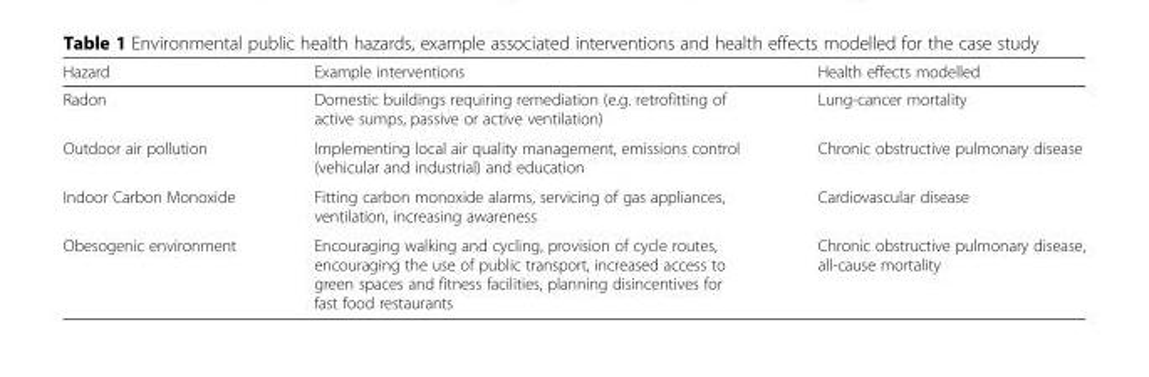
<table><thead><tr><td>Hazard</td><td>Example interventions</td><td>Health effects modelled</td></tr></thead><tbody><tr><td>Radon</td><td>Domestic buildings requiring remediation (e.g. retrofitting of active sumps, passive or active ventilation)</td><td>Lung-cancer mortality</td></tr><tr><td>Outdoor air pollution</td><td>Implementing local air quality management, emissions control (vehicular and industrial) and education</td><td>Chronic obstructive pulmonary disease</td></tr><tr><td>Indoor Carbon Monoxide</td><td>Fitting carbon monoxide alarms, servicing of gas appliances, ventilation, increasing awareness</td><td>Cardiovascular disease</td></tr><tr><td>Obesogenic environment</td><td>Encouraging walking and cycling, provision of cycle routes, encouraging the use of public transport, increased access to green spaces and fitness facilities, planning disincentives for fast food restaurants</td><td>Chronic obstructive pulmonary disease, all-cause mortality</td></tr></tbody></table>